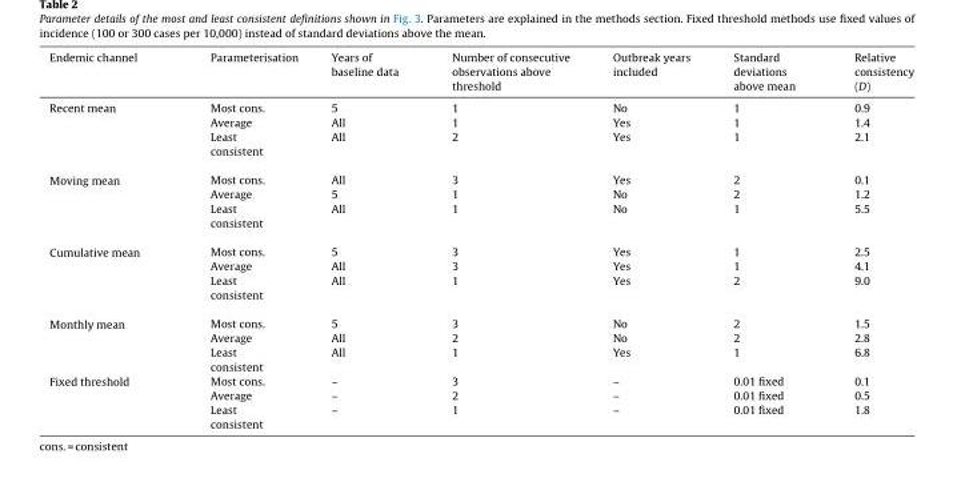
<table><thead><tr><td>Endemic channel</td><td>Parameterisation</td><td>Years of baseline data</td><td>Number of consecutive observations above threshold</td><td>Outbreak years included</td><td>Standard deviations above mean</td><td>Relative consistency (D)</td></tr></thead><tbody><tr><td rowspan="3">Recent mean</td><td>Most cons.</td><td>5</td><td>1</td><td>No</td><td>1</td><td>0.9</td></tr><tr><td>Average</td><td>All</td><td>1</td><td>Yes</td><td>1</td><td>1.4</td></tr><tr><td>Least consistent</td><td>All</td><td>2</td><td>Yes</td><td>1</td><td>2.1</td></tr><tr><td rowspan="3">Moving mean</td><td>Most cons.</td><td>All</td><td>3</td><td>Yes</td><td>2</td><td>0.1</td></tr><tr><td>Average</td><td>5</td><td>1</td><td>No</td><td>2</td><td>1.2</td></tr><tr><td>Least consistent</td><td>All</td><td>1</td><td>No</td><td>1</td><td>5.5</td></tr><tr><td rowspan="3">Cumulative mean</td><td>Most cons.</td><td>5</td><td>3</td><td>Yes</td><td>1</td><td>2.5</td></tr><tr><td>Average</td><td>All</td><td>3</td><td>Yes</td><td>1</td><td>4.1</td></tr><tr><td>Least consistent</td><td>All</td><td>1</td><td>Yes</td><td>2</td><td>9.0</td></tr><tr><td rowspan="3">Monthly mean</td><td>Most cons.</td><td>5</td><td>3</td><td>No</td><td>2</td><td>1.5</td></tr><tr><td>Average</td><td>All</td><td>2</td><td>No</td><td>2</td><td>2.8</td></tr><tr><td>Least consistent</td><td>All</td><td>1</td><td>Yes</td><td>1</td><td>6.8</td></tr><tr><td rowspan="3">Fixed threshold</td><td>Most cons.</td><td>–</td><td>3</td><td>–</td><td>0.01 fixed</td><td>0.1</td></tr><tr><td>Average</td><td>–</td><td>2</td><td>–</td><td>0.01 fixed</td><td>0.5</td></tr><tr><td>Least consistent</td><td>–</td><td>1</td><td>–</td><td>0.01 fixed</td><td>1.8</td></tr></tbody></table>